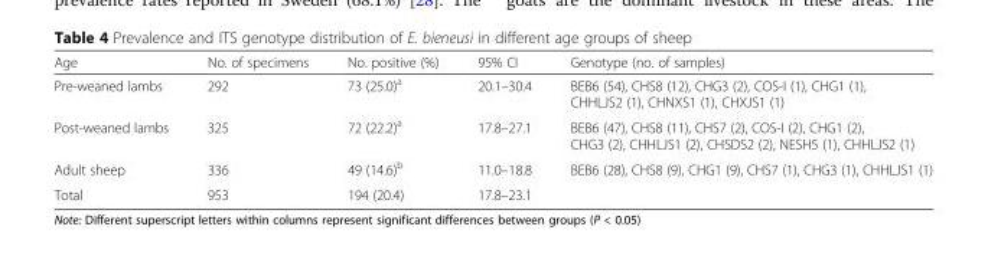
<table><thead><tr><td>Age</td><td>No. of specimens</td><td>No. positive (%)</td><td>95% CI</td><td>Genotype (no. of samples)</td></tr></thead><tbody><tr><td>Pre-weaned lambs</td><td>292</td><td>73 (25.0)<sup>a</sup></td><td>20.1–30.4</td><td>BEB6 (54), CHS8 (12), CHG3 (2), COS-I (1), CHG1 (1), CHHLJS2 (1), CHNXS1 (1), CHXJS1 (1)</td></tr><tr><td>Post-weaned lambs</td><td>325</td><td>72 (22.2)<sup>a</sup></td><td>17.8–27.1</td><td>BEB6 (47), CHS8 (11), CHS7 (2), COS-I (2), CHG1 (2), CHG3 (2), CHHLJS1 (2), CHSDS2 (2), NESH5 (1), CHHLJS2 (1)</td></tr><tr><td>Adult sheep</td><td>336</td><td>49 (14.6)<sup>b</sup></td><td>11.0–18.8</td><td>BEB6 (28), CHS8 (9), CHG1 (9), CHS7 (1), CHG3 (1), CHHLJS1 (1)</td></tr><tr><td>Total</td><td>953</td><td>194 (20.4)</td><td>17.8–23.1</td><td></td></tr></tbody></table>